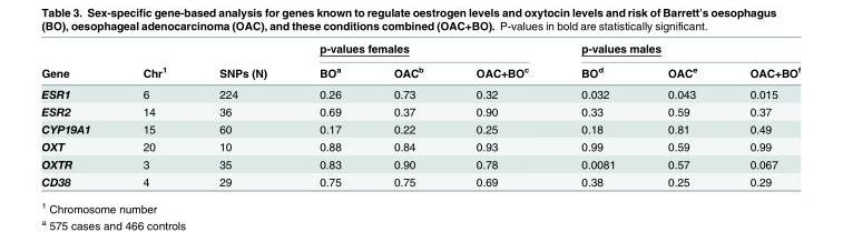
<table><thead><tr><td rowspan="2">Gene</td><td rowspan="2">Chr<sup>1</sup></td><td rowspan="2">SNPs (N)</td><td colspan="3">p-values females</td><td colspan="3">p-values males</td></tr><tr><td>BO<sup>a</sup></td><td>OAC<sup>b</sup></td><td>OAC+BO<sup>c</sup></td><td>BO<sup>d</sup></td><td>OAC<sup>e</sup></td><td>OAC+BO<sup>f</sup></td></tr></thead><tbody><tr><td>ESR1</td><td>6</td><td>224</td><td>0.26</td><td>0.73</td><td>0.32</td><td>0.032</td><td>0.043</td><td>0.015</td></tr><tr><td>ESR2</td><td>14</td><td>36</td><td>0.69</td><td>0.37</td><td>0.90</td><td>0.33</td><td>0.59</td><td>0.37</td></tr><tr><td>CYP19A1</td><td>15</td><td>60</td><td>0.17</td><td>0.22</td><td>0.25</td><td>0.18</td><td>0.81</td><td>0.49</td></tr><tr><td>OXT</td><td>20</td><td>10</td><td>0.88</td><td>0.84</td><td>0.93</td><td>0.99</td><td>0.59</td><td>0.99</td></tr><tr><td>OXTR</td><td>3</td><td>35</td><td>0.83</td><td>0.90</td><td>0.78</td><td>0.0081</td><td>0.57</td><td>0.067</td></tr><tr><td>CD38</td><td>4</td><td>29</td><td>0.75</td><td>0.75</td><td>0.69</td><td>0.38</td><td>0.25</td><td>0.29</td></tr></tbody></table>